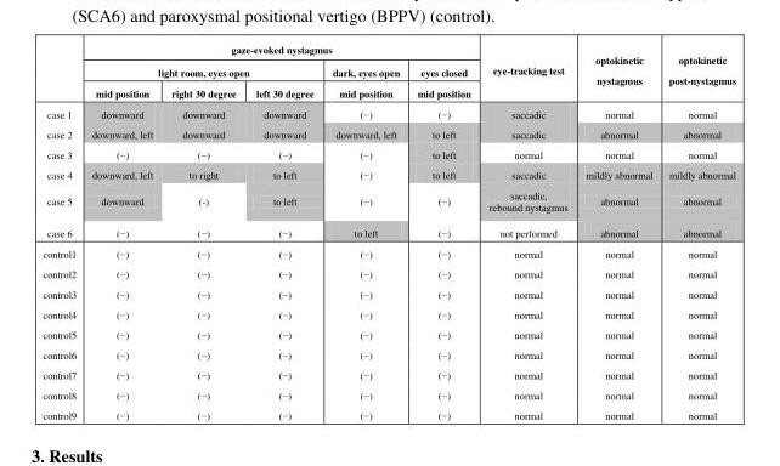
<table><thead><tr><td rowspan="3"></td><td colspan="5">gaze-evoked nystagmus</td><td rowspan="3">eye-tracking test</td><td rowspan="3">optokinetic nystagmus</td><td rowspan="3">optokinetic post-nystagmus</td></tr><tr><td colspan="3">light room, eyes open</td><td rowspan="2">dark, eyes open mid position</td><td rowspan="2">eyes closed mid position</td></tr><tr><td>mid position</td><td>right 30 degree</td><td>left 30 degree</td></tr></thead><tbody><tr><td>case 1</td><td>downward</td><td>downward</td><td>downward</td><td>(−)</td><td>(−)</td><td>saccadic</td><td>normal</td><td>normal</td></tr><tr><td>case 2</td><td>downward, left</td><td>downward</td><td>downward</td><td>downward, left</td><td>to left</td><td>saccadic</td><td>abnormal</td><td>abnormal</td></tr><tr><td>case 3</td><td>(−)</td><td>(−)</td><td>(−)</td><td>(−)</td><td>to left</td><td>normal</td><td>normal</td><td>normal</td></tr><tr><td>case 4</td><td>downward, left</td><td>to right</td><td>to left</td><td>(−)</td><td>to left</td><td>saccadic</td><td>mildly abnormal</td><td>mildly abnormal</td></tr><tr><td>case 5</td><td>downward</td><td>(-)</td><td>to left</td><td>(−)</td><td>(−)</td><td>saccadic, rebound nystagmus</td><td>abnormal</td><td>abnormal</td></tr><tr><td>case 6</td><td>(−)</td><td>(−)</td><td>(−)</td><td>to left</td><td>(−)</td><td>not performed</td><td>abnormal</td><td>abnormal</td></tr><tr><td>control1</td><td>(−)</td><td>(−)</td><td>(−)</td><td>(−)</td><td>(−)</td><td>normal</td><td>normal</td><td>normal</td></tr><tr><td>control2</td><td>(−)</td><td>(−)</td><td>(−)</td><td>(−)</td><td>(−)</td><td>normal</td><td>normal</td><td>normal</td></tr><tr><td>control3</td><td>(−)</td><td>(−)</td><td>(−)</td><td>(−)</td><td>(−)</td><td>normal</td><td>normal</td><td>normal</td></tr><tr><td>control4</td><td>(−)</td><td>(−)</td><td>(−)</td><td>(−)</td><td>(−)</td><td>normal</td><td>normal</td><td>normal</td></tr><tr><td>control5</td><td>(−)</td><td>(−)</td><td>(−)</td><td>(−)</td><td>(−)</td><td>normal</td><td>normal</td><td>normal</td></tr><tr><td>control6</td><td>(−)</td><td>(−)</td><td>(−)</td><td>(−)</td><td>(−)</td><td>normal</td><td>normal</td><td>normal</td></tr><tr><td>control7</td><td>(−)</td><td>(−)</td><td>(−)</td><td>(−)</td><td>(−)</td><td>normal</td><td>normal</td><td>normal</td></tr><tr><td>control8</td><td>(−)</td><td>(−)</td><td>(−)</td><td>(−)</td><td>(−)</td><td>normal</td><td>normal</td><td>normal</td></tr><tr><td>control9</td><td>(−)</td><td>(−)</td><td>(−)</td><td>(−)</td><td>(−)</td><td>normal</td><td>normal</td><td>normal</td></tr></tbody></table>